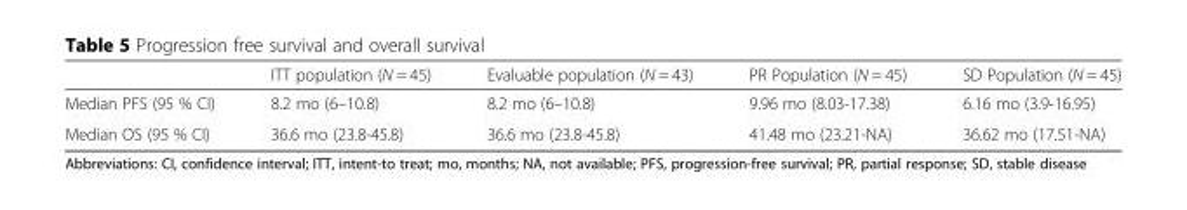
<table><thead><tr><td></td><td>ITT population (N = 45)</td><td>Evaluable population (N = 43)</td><td>PR Population (N = 45)</td><td>SD Population (N = 45)</td></tr></thead><tbody><tr><td>Median PFS (95 % CI)</td><td>8.2 mo (6–10.8)</td><td>8.2 mo (6–10.8)</td><td>9.96 mo (8.03-17.38)</td><td>6.16 mo (3.9-16.95)</td></tr><tr><td>Median OS (95 % CI)</td><td>36.6 mo (23.8-45.8)</td><td>36.6 mo (23.8-45.8)</td><td>41.48 mo (23.21-NA)</td><td>36.62 mo (17.51-NA)</td></tr></tbody></table>